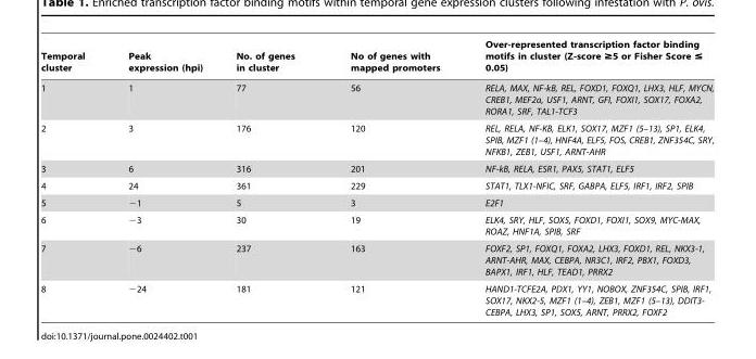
<table><thead><tr><td>Temporal cluster</td><td>Peak expression (hpi)</td><td>No. of genes in cluster</td><td>No of genes with mapped promoters</td><td>Over-represented transcription factor binding motifs in cluster (Z-score ≥5 or Fisher Score ≤ 0.05)</td></tr></thead><tbody><tr><td>1</td><td>1</td><td>77</td><td>56</td><td>RELA, MAX, NF-kB, REL, FOXD1, FOXQ1, LHX3, HLF, MYCN, CREB1, MEF2a, USF1, ARNT, GFI, FOXI1, SOX17, FOXA2, RORA1, SRF, TAL1-TCF3</td></tr><tr><td>2</td><td>3</td><td>176</td><td>120</td><td>REL, RELA, NF-KB, ELK1, SOX17, MZF1 (5–13), SP1, ELK4, SPIB, MZF1 (1–4), HNF4A, ELF5, FOS, CREB1, ZNF354C, SRY, NFKB1, ZEB1, USF1, ARNT-AHR</td></tr><tr><td>3</td><td>6</td><td>316</td><td>201</td><td>NF-kB, RELA, ESR1, PAX5, STAT1, ELF5</td></tr><tr><td>4</td><td>24</td><td>361</td><td>229</td><td>STAT1, TLX1-NFIC, SRF, GABPA, ELF5, IRF1, IRF2, SPIB</td></tr><tr><td>5</td><td>−1</td><td>5</td><td>3</td><td>E2F1</td></tr><tr><td>6</td><td>−3</td><td>30</td><td>19</td><td>ELK4, SRY, HLF, SOX5, FOXD1, FOXI1, SOX9, MYC-MAX, ROAZ, HNF1A, SPIB, SRF</td></tr><tr><td>7</td><td>−6</td><td>237</td><td>163</td><td>FOXF2, SP1, FOXQ1, FOXA2, LHX3, FOXD1, REL, NKX3-1, ARNT-AHR, MAX, CEBPA, NR3C1, IRF2, PBX1, FOXD3, BAPX1, IRF1, HLF, TEAD1, PRRX2</td></tr><tr><td>8</td><td>−24</td><td>181</td><td>121</td><td>HAND1-TCFE2A, PDX1, YY1, NOBOX, ZNF354C, SPIB, IRF1, SOX17, NKX2-5, MZF1 (1–4), ZEB1, MZF1 (5–13), DDIT3- CEBPA, LHX3, SP1, SOX5, ARNT, PRRX2, FOXF2</td></tr></tbody></table>